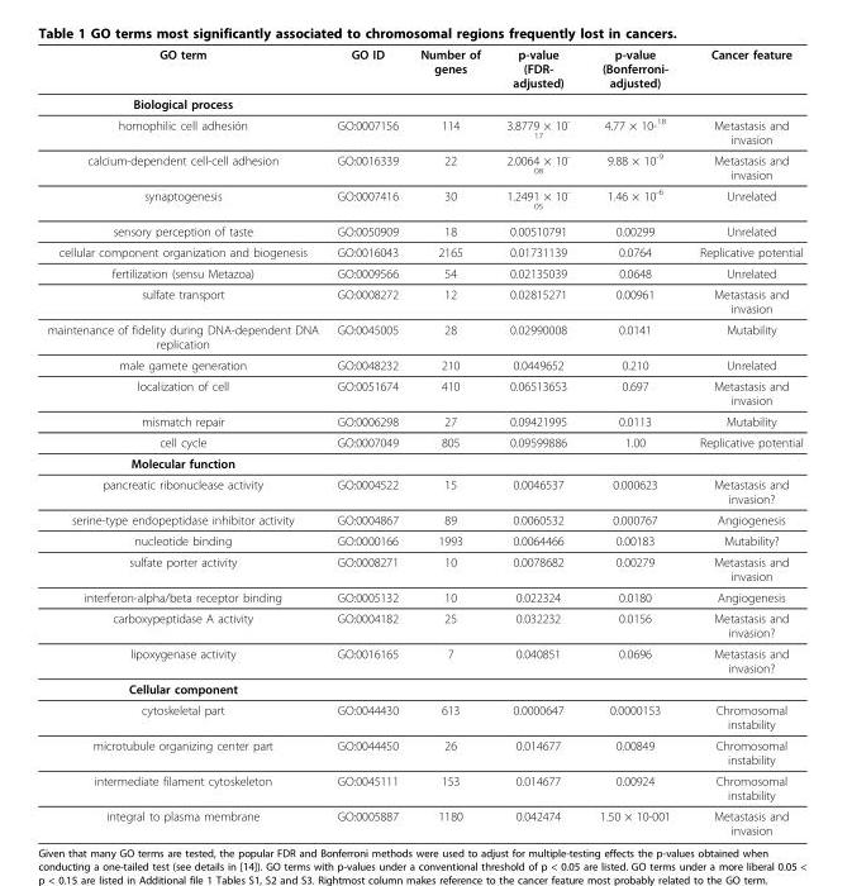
<table><thead><tr><td>GO term</td><td>GO ID</td><td>Number of genes</td><td>p-value (FDR- adjusted)</td><td>p-value (Bonferroni- adjusted)</td><td>Cancer feature</td></tr></thead><tbody><tr><td colspan="6">Biological process</td></tr><tr><td>homophilic cell adhesión</td><td>GO:0007156</td><td>114</td><td>3.8779 × 10<sup>- 17</sup></td><td>4.77 × 10-<sup>18</sup></td><td>Metastasis and invasion</td></tr><tr><td>calcium-dependent cell-cell adhesion</td><td>GO:0016339</td><td>22</td><td>2.0064 × 10<sup>- 08</sup></td><td>9.88 × 10<sup>-9</sup></td><td>Metastasis and invasion</td></tr><tr><td>synaptogenesis</td><td>GO:0007416</td><td>30</td><td>1.2491 × 10<sup>- 05</sup></td><td>1.46 × 10<sup>-6</sup></td><td>Unrelated</td></tr><tr><td>sensory perception of taste</td><td>GO:0050909</td><td>18</td><td>0.00510791</td><td>0.00299</td><td>Unrelated</td></tr><tr><td>cellular component organization and biogenesis</td><td>GO:0016043</td><td>2165</td><td>0.01731139</td><td>0.0764</td><td>Replicative potential</td></tr><tr><td>fertilization (sensu Metazoa)</td><td>GO:0009566</td><td>54</td><td>0.02135039</td><td>0.0648</td><td>Unrelated</td></tr><tr><td>sulfate transport</td><td>GO:0008272</td><td>12</td><td>0.02815271</td><td>0.00961</td><td>Metastasis and invasion</td></tr><tr><td>maintenance of fidelity during DNA-dependent DNA replication</td><td>GO:0045005</td><td>28</td><td>0.02990008</td><td>0.0141</td><td>Mutability</td></tr><tr><td>male gamete generation</td><td>GO:0048232</td><td>210</td><td>0.0449652</td><td>0.210</td><td>Unrelated</td></tr><tr><td>localization of cell</td><td>GO:0051674</td><td>410</td><td>0.06513653</td><td>0.697</td><td>Metastasis and invasion</td></tr><tr><td>mismatch repair</td><td>GO:0006298</td><td>27</td><td>0.09421995</td><td>0.0113</td><td>Mutability</td></tr><tr><td>cell cycle</td><td>GO:0007049</td><td>805</td><td>0.09599886</td><td>1.00</td><td>Replicative potential</td></tr><tr><td colspan="6">Molecular function</td></tr><tr><td>pancreatic ribonuclease activity</td><td>GO:0004522</td><td>15</td><td>0.0046537</td><td>0.000623</td><td>Metastasis and invasion?</td></tr><tr><td>serine-type endopeptidase inhibitor activity</td><td>GO:0004867</td><td>89</td><td>0.0060532</td><td>0.000767</td><td>Angiogenesis</td></tr><tr><td>nucleotide binding</td><td>GO:0000166</td><td>1993</td><td>0.0064466</td><td>0.00183</td><td>Mutability?</td></tr><tr><td>sulfate porter activity</td><td>GO:0008271</td><td>10</td><td>0.0078682</td><td>0.00279</td><td>Metastasis and invasion</td></tr><tr><td>interferon-alpha/beta receptor binding</td><td>GO:0005132</td><td>10</td><td>0.022324</td><td>0.0180</td><td>Angiogenesis</td></tr><tr><td>carboxypeptidase A activity</td><td>GO:0004182</td><td>25</td><td>0.032232</td><td>0.0156</td><td>Metastasis and invasion?</td></tr><tr><td>lipoxygenase activity</td><td>GO:0016165</td><td>7</td><td>0.040851</td><td>0.0696</td><td>Metastasis and invasion?</td></tr><tr><td colspan="6">Cellular component</td></tr><tr><td>cytoskeletal part</td><td>GO:0044430</td><td>613</td><td>0.0000647</td><td>0.0000153</td><td>Chromosomal instability</td></tr><tr><td>microtubule organizing center part</td><td>GO:0044450</td><td>26</td><td>0.014677</td><td>0.00849</td><td>Chromosomal instability</td></tr><tr><td>intermediate filament cytoskeleton</td><td>GO:0045111</td><td>153</td><td>0.014677</td><td>0.00924</td><td>Chromosomal instability</td></tr><tr><td>integral to plasma membrane</td><td>GO:0005887</td><td>1180</td><td>0.042474</td><td>1.50 × 10-001</td><td>Metastasis and invasion</td></tr></tbody></table>